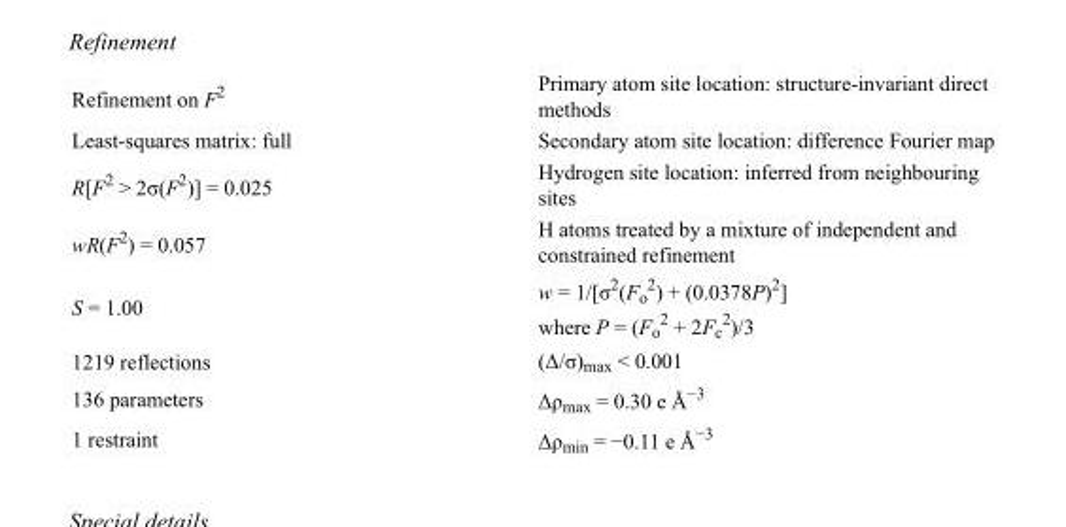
<table><tbody><tr><td>Refinement on F<sup>2</sup></td><td>Primary atom site location: structure-invariant direct methods</td></tr><tr><td>Least-squares matrix: full</td><td>Secondary atom site location: difference Fourier map</td></tr><tr><td>R[F<sup>2</sup> &gt; 2σ(F<sup>2</sup>)] = 0.025</td><td>Hydrogen site location: inferred from neighbouring sites</td></tr><tr><td>wR(F<sup>2</sup>) = 0.057</td><td>H atoms treated by a mixture of independent and constrained refinement</td></tr><tr><td>S = 1.00</td><td>w = 1/[σ<sup>2</sup>(F<sub>o</sub> <sup>2</sup>) + (0.0378P)<sup>2</sup>] where P = (F<sub>o</sub> <sup>2</sup> + 2F<sub>c</sub> <sup>2</sup>)/3</td></tr><tr><td>1219 reflections</td><td>(Δ/σ)<sub>max</sub> &lt; 0.001</td></tr><tr><td>136 parameters</td><td>Δρ<sub>max</sub> = 0.30 e Å<sup>−3</sup></td></tr><tr><td>1 restraint</td><td>Δρ<sub>min</sub> = −0.11 e Å<sup>−3</sup></td></tr></tbody></table>